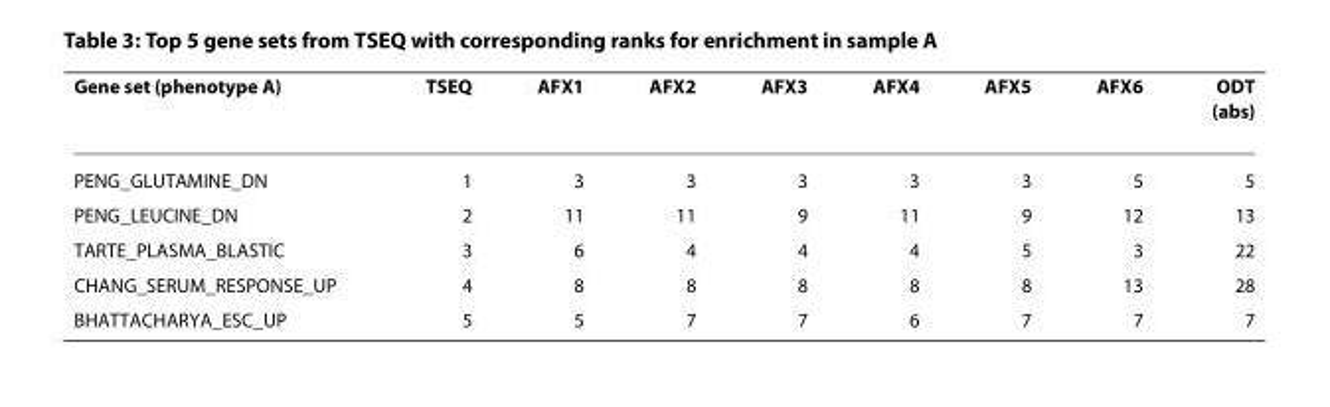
<table><thead><tr><td>Gene set (phenotype A)</td><td>TSEQ</td><td>AFX1</td><td>AFX2</td><td>AFX3</td><td>AFX4</td><td>AFX5</td><td>AFX6</td><td>ODT (abs)</td></tr></thead><tbody><tr><td>PENG_GLUTAMINE_DN</td><td>1</td><td>3</td><td>3</td><td>3</td><td>3</td><td>3</td><td>5</td><td>5</td></tr><tr><td>PENG_LEUCINE_DN</td><td>2</td><td>11</td><td>11</td><td>9</td><td>11</td><td>9</td><td>12</td><td>13</td></tr><tr><td>TARTE_PLASMA_BLASTIC</td><td>3</td><td>6</td><td>4</td><td>4</td><td>4</td><td>5</td><td>3</td><td>22</td></tr><tr><td>CHANG_SERUM_RESPONSE_UP</td><td>4</td><td>8</td><td>8</td><td>8</td><td>8</td><td>8</td><td>13</td><td>28</td></tr><tr><td>BHATTACHARYA_ESC_UP</td><td>5</td><td>5</td><td>7</td><td>7</td><td>6</td><td>7</td><td>7</td><td>7</td></tr></tbody></table>